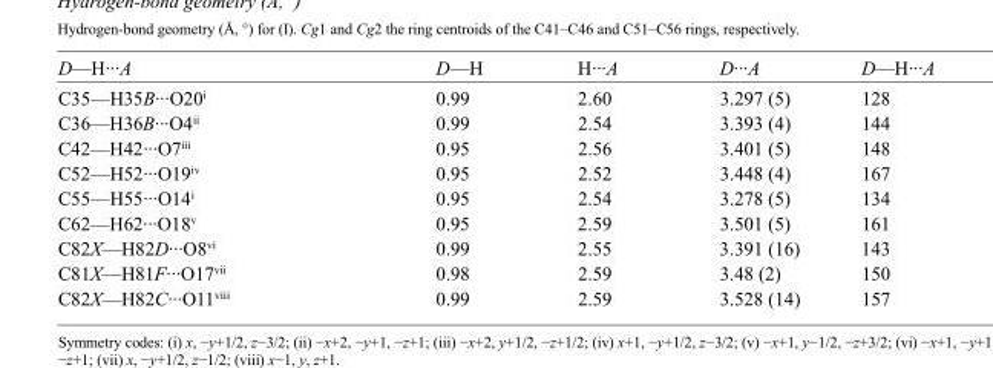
<table><tbody><tr><td>D—H···A</td><td>D—H</td><td>H···A</td><td>D···A</td><td>D—H···A</td></tr><tr><td>C35—H35B···O20<sup>i</sup></td><td>0.99</td><td>2.60</td><td>3.297 (5)</td><td>128</td></tr><tr><td>C36—H36B···O4<sup>ii</sup></td><td>0.99</td><td>2.54</td><td>3.393 (4)</td><td>144</td></tr><tr><td>C42—H42···O7<sup>iii</sup></td><td>0.95</td><td>2.56</td><td>3.401 (5)</td><td>148</td></tr><tr><td>C52—H52···O19<sup>iv</sup></td><td>0.95</td><td>2.52</td><td>3.448 (4)</td><td>167</td></tr><tr><td>C55—H55···O14<sup>i</sup></td><td>0.95</td><td>2.54</td><td>3.278 (5)</td><td>134</td></tr><tr><td>C62—H62···O18<sup>v</sup></td><td>0.95</td><td>2.59</td><td>3.501 (5)</td><td>161</td></tr><tr><td>C82X—H82D···O8<sup>vi</sup></td><td>0.99</td><td>2.55</td><td>3.391 (16)</td><td>143</td></tr><tr><td>C81X—H81F···O17<sup>vii</sup></td><td>0.98</td><td>2.59</td><td>3.48 (2)</td><td>150</td></tr><tr><td>C82X—H82C···O11<sup>viii</sup></td><td>0.99</td><td>2.59</td><td>3.528 (14)</td><td>157</td></tr></tbody></table>